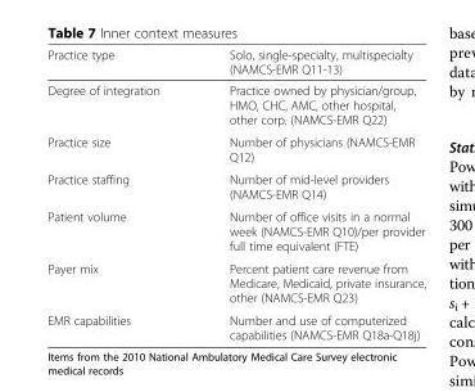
<table><thead><tr><td>Practice type</td><td>Solo, single-specialty, multispecialty (NAMCS-EMR Q11-13)</td></tr></thead><tbody><tr><td>Degree of integration</td><td>Practice owned by physician/group, HMO, CHC, AMC, other hospital, other corp. (NAMCS-EMR Q22)</td></tr><tr><td>Practice size</td><td>Number of physicians (NAMCS-EMR Q12)</td></tr><tr><td>Practice staffing</td><td>Number of mid-level providers (NAMCS-EMR Q14)</td></tr><tr><td>Patient volume</td><td>Number of office visits in a normal week (NAMCS-EMR Q10)/per provider full time equivalent (FTE)</td></tr><tr><td>Payer mix</td><td>Percent patient care revenue from Medicare, Medicaid, private insurance, other (NAMCS-EMR Q23)</td></tr><tr><td>EMR capabilities</td><td>Number and use of computerized capabilities (NAMCS-EMR Q18a-Q18j)</td></tr></tbody></table>